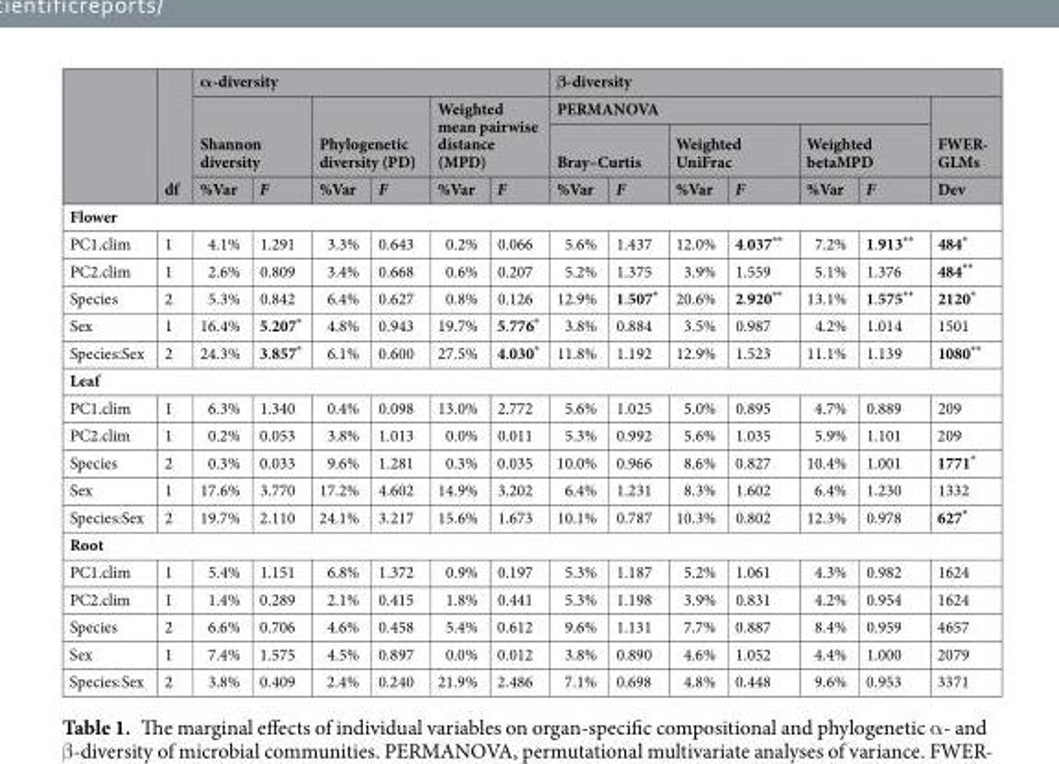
<table><thead><tr><td rowspan="4"></td><td rowspan="4">df</td><td colspan="6">α-diversity</td><td colspan="7">β-diversity</td></tr><tr><td rowspan="2" colspan="2">Shannon diversity</td><td rowspan="2" colspan="2">Phylogenetic diversity (PD)</td><td rowspan="2" colspan="2">Weighted mean pairwise distance (MPD)</td><td colspan="6">PERMANOVA</td><td rowspan="3">FWER- GLMs Dev</td></tr><tr><td colspan="2">Bray–Curtis</td><td colspan="2">Weighted UniFrac</td><td colspan="2">Weighted betaMPD</td></tr><tr><td>%Var</td><td>F</td><td>%Var</td><td>F</td><td>%Var</td><td>F</td><td>%Var</td><td>F</td><td>%Var</td><td>F</td><td>%Var</td><td>F</td></tr></thead><tbody><tr><td colspan="15">Flower</td></tr><tr><td>PC1.clim</td><td>1</td><td>4.1%</td><td>1.291</td><td>3.3%</td><td>0.643</td><td>0.2%</td><td>0.066</td><td>5.6%</td><td>1.437</td><td>12.0%</td><td>4.037**</td><td>7.2%</td><td>1.913**</td><td>484*</td></tr><tr><td>PC2.clim</td><td>1</td><td>2.6%</td><td>0.809</td><td>3.4%</td><td>0.668</td><td>0.6%</td><td>0.207</td><td>5.2%</td><td>1.375</td><td>3.9%</td><td>1.559</td><td>5.1%</td><td>1.376</td><td>484**</td></tr><tr><td>Species</td><td>2</td><td>5.3%</td><td>0.842</td><td>6.4%</td><td>0.627</td><td>0.8%</td><td>0.126</td><td>12.9%</td><td>1.507*</td><td>20.6%</td><td>2.920**</td><td>13.1%</td><td>1.575**</td><td>2120*</td></tr><tr><td>Sex</td><td>1</td><td>16.4%</td><td>5.207*</td><td>4.8%</td><td>0.943</td><td>19.7%</td><td>5.776*</td><td>3.8%</td><td>0.884</td><td>3.5%</td><td>0.987</td><td>4.2%</td><td>1.014</td><td>1501</td></tr><tr><td>Species:Sex</td><td>2</td><td>24.3%</td><td>3.857*</td><td>6.1%</td><td>0.600</td><td>27.5%</td><td>4.030*</td><td>11.8%</td><td>1.192</td><td>12.9%</td><td>1.523</td><td>11.1%</td><td>1.139</td><td>1080**</td></tr><tr><td colspan="15">Leaf</td></tr><tr><td>PC1.clim</td><td>1</td><td>6.3%</td><td>1.340</td><td>0.4%</td><td>0.098</td><td>13.0%</td><td>2.772</td><td>5.6%</td><td>1.025</td><td>5.0%</td><td>0.895</td><td>4.7%</td><td>0.889</td><td>209</td></tr><tr><td>PC2.clim</td><td>1</td><td>0.2%</td><td>0.053</td><td>3.8%</td><td>1.013</td><td>0.0%</td><td>0.011</td><td>5.3%</td><td>0.992</td><td>5.6%</td><td>1.035</td><td>5.9%</td><td>1.101</td><td>209</td></tr><tr><td>Species</td><td>2</td><td>0.3%</td><td>0.033</td><td>9.6%</td><td>1.281</td><td>0.3%</td><td>0.035</td><td>10.0%</td><td>0.966</td><td>8.6%</td><td>0.827</td><td>10.4%</td><td>1.001</td><td>1771*</td></tr><tr><td>Sex</td><td>1</td><td>17.6%</td><td>3.770</td><td>17.2%</td><td>4.602</td><td>14.9%</td><td>3.202</td><td>6.4%</td><td>1.231</td><td>8.3%</td><td>1.602</td><td>6.4%</td><td>1.230</td><td>1332</td></tr><tr><td>Species:Sex</td><td>2</td><td>19.7%</td><td>2.110</td><td>24.1%</td><td>3.217</td><td>15.6%</td><td>1.673</td><td>10.1%</td><td>0.787</td><td>10.3%</td><td>0.802</td><td>12.3%</td><td>0.978</td><td>627*</td></tr><tr><td colspan="15">Root</td></tr><tr><td>PC1.clim</td><td>1</td><td>5.4%</td><td>1.151</td><td>6.8%</td><td>1.372</td><td>0.9%</td><td>0.197</td><td>5.3%</td><td>1.187</td><td>5.2%</td><td>1.061</td><td>4.3%</td><td>0.982</td><td>1624</td></tr><tr><td>PC2.clim</td><td>1</td><td>1.4%</td><td>0.289</td><td>2.1%</td><td>0.415</td><td>1.8%</td><td>0.441</td><td>5.3%</td><td>1.198</td><td>3.9%</td><td>0.831</td><td>4.2%</td><td>0.954</td><td>1624</td></tr><tr><td>Species</td><td>2</td><td>6.6%</td><td>0.706</td><td>4.6%</td><td>0.458</td><td>5.4%</td><td>0.612</td><td>9.6%</td><td>1.131</td><td>7.7%</td><td>0.887</td><td>8.4%</td><td>0.959</td><td>4657</td></tr><tr><td>Sex</td><td>1</td><td>7.4%</td><td>1.575</td><td>4.5%</td><td>0.897</td><td>0.0%</td><td>0.012</td><td>3.8%</td><td>0.890</td><td>4.6%</td><td>1.052</td><td>4.4%</td><td>1.000</td><td>2079</td></tr><tr><td>Species:Sex</td><td>2</td><td>3.8%</td><td>0.409</td><td>2.4%</td><td>0.240</td><td>21.9%</td><td>2.486</td><td>7.1%</td><td>0.698</td><td>4.8%</td><td>0.448</td><td>9.6%</td><td>0.953</td><td>3371</td></tr></tbody></table>